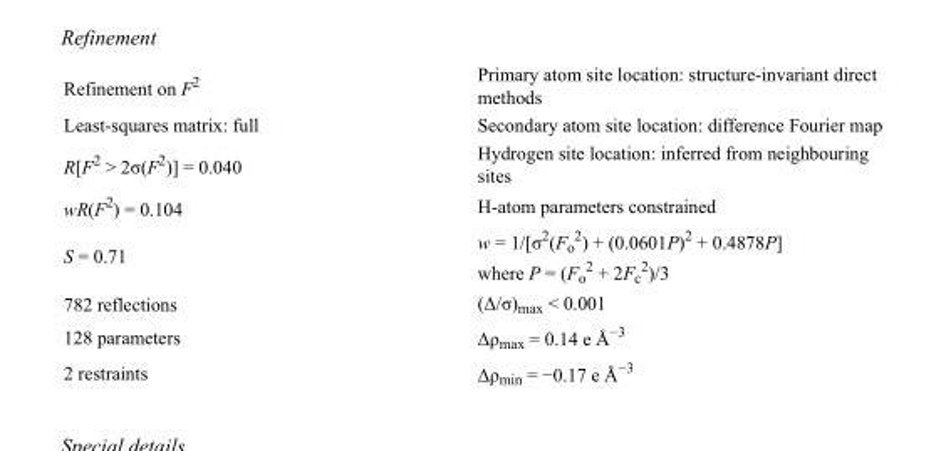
<table><tbody><tr><td>Refinement on F<sup>2</sup></td><td>Primary atom site location: structure-invariant direct methods</td></tr><tr><td>Least-squares matrix: full</td><td>Secondary atom site location: difference Fourier map</td></tr><tr><td>R[F<sup>2</sup> &gt; 2σ(F<sup>2</sup>)] = 0.040</td><td>Hydrogen site location: inferred from neighbouring sites</td></tr><tr><td>wR(F<sup>2</sup>) = 0.104</td><td>H-atom parameters constrained</td></tr><tr><td>S = 0.71</td><td>w = 1/[σ<sup>2</sup>(F<sub>o</sub> <sup>2</sup>) + (0.0601P)<sup>2</sup> + 0.4878P] where P = (F<sub>o</sub> <sup>2</sup> + 2F<sub>c</sub> <sup>2</sup>)/3</td></tr><tr><td>782 reflections</td><td>(Δ/σ)<sub>max</sub> &lt; 0.001</td></tr><tr><td>128 parameters</td><td>Δρ<sub>max</sub> = 0.14 e Å<sup>−3</sup></td></tr><tr><td>2 restraints</td><td>Δρ<sub>min</sub> = −0.17 e Å<sup>−3</sup></td></tr></tbody></table>